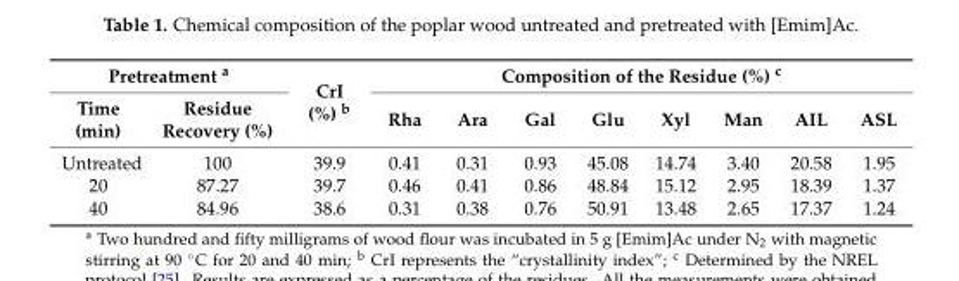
<table><thead><tr><td colspan="2">Pretreatment <sup>a</sup></td><td rowspan="2">CrI (%) <sup>b</sup></td><td colspan="8">Composition of the Residue (%) <sup>c</sup></td></tr><tr><td>Time (min)</td><td>Residue Recovery (%)</td><td>Rha</td><td>Ara</td><td>Gal</td><td>Glu</td><td>Xyl</td><td>Man</td><td>AIL</td><td>ASL</td></tr></thead><tbody><tr><td>Untreated</td><td>100</td><td>39.9</td><td>0.41</td><td>0.31</td><td>0.93</td><td>45.08</td><td>14.74</td><td>3.40</td><td>20.58</td><td>1.95</td></tr><tr><td>20</td><td>87.27</td><td>39.7</td><td>0.46</td><td>0.41</td><td>0.86</td><td>48.84</td><td>15.12</td><td>2.95</td><td>18.39</td><td>1.37</td></tr><tr><td>40</td><td>84.96</td><td>38.6</td><td>0.31</td><td>0.38</td><td>0.76</td><td>50.91</td><td>13.48</td><td>2.65</td><td>17.37</td><td>1.24</td></tr></tbody></table>